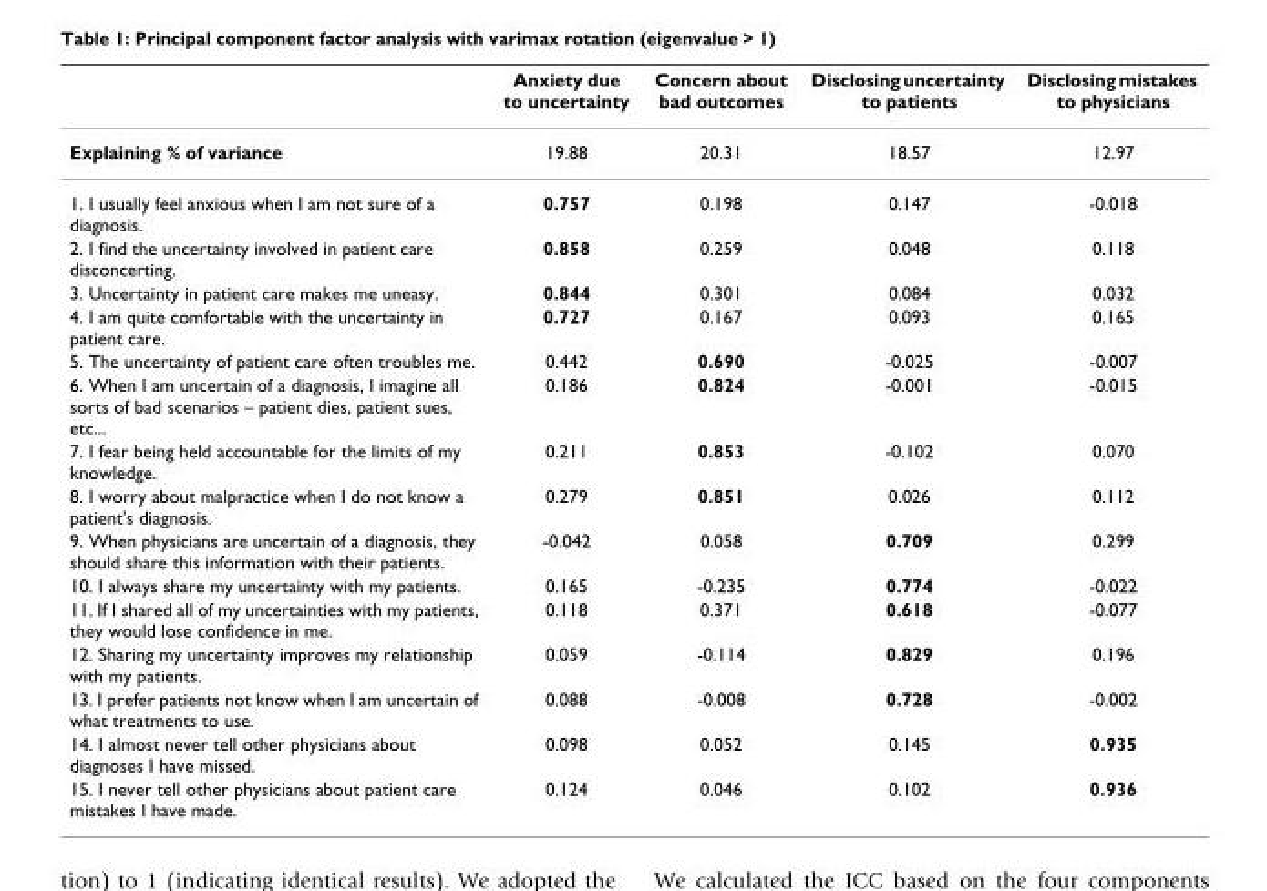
<table><thead><tr><td></td><td>Anxiety due to uncertainty</td><td>Concern about bad outcomes</td><td>Disclosing uncertainty to patients</td><td>Disclosing mistakes to physicians</td></tr></thead><tbody><tr><td>Explaining % of variance</td><td>19.88</td><td>20.31</td><td>18.57</td><td>12.97</td></tr><tr><td>1. I usually feel anxious when I am not sure of a diagnosis.</td><td>0.757</td><td>0.198</td><td>0.147</td><td>-0.018</td></tr><tr><td>2. I find the uncertainty involved in patient care disconcerting.</td><td>0.858</td><td>0.259</td><td>0.048</td><td>0.118</td></tr><tr><td>3. Uncertainty in patient care makes me uneasy.</td><td>0.844</td><td>0.301</td><td>0.084</td><td>0.032</td></tr><tr><td>4. I am quite comfortable with the uncertainty in patient care.</td><td>0.727</td><td>0.167</td><td>0.093</td><td>0.165</td></tr><tr><td>5. The uncertainty of patient care often troubles me.</td><td>0.442</td><td>0.690</td><td>-0.025</td><td>-0.007</td></tr><tr><td>6. When I am uncertain of a diagnosis, I imagine all sorts of bad scenarios – patient dies, patient sues, etc...</td><td>0.186</td><td>0.824</td><td>-0.001</td><td>-0.015</td></tr><tr><td>7. I fear being held accountable for the limits of my knowledge.</td><td>0.211</td><td>0.853</td><td>-0.102</td><td>0.070</td></tr><tr><td>8. I worry about malpractice when I do not know a patient&#x27;s diagnosis.</td><td>0.279</td><td>0.851</td><td>0.026</td><td>0.112</td></tr><tr><td>9. When physicians are uncertain of a diagnosis, they should share this information with their patients.</td><td>-0.042</td><td>0.058</td><td>0.709</td><td>0.299</td></tr><tr><td>10. I always share my uncertainty with my patients.</td><td>0.165</td><td>-0.235</td><td>0.774</td><td>-0.022</td></tr><tr><td>11. If I shared all of my uncertainties with my patients, they would lose confidence in me.</td><td>0.118</td><td>0.371</td><td>0.618</td><td>-0.077</td></tr><tr><td>12. Sharing my uncertainty improves my relationship with my patients.</td><td>0.059</td><td>-0.114</td><td>0.829</td><td>0.196</td></tr><tr><td>13. I prefer patients not know when I am uncertain of what treatments to use.</td><td>0.088</td><td>-0.008</td><td>0.728</td><td>-0.002</td></tr><tr><td>14. I almost never tell other physicians about diagnoses I have missed.</td><td>0.098</td><td>0.052</td><td>0.145</td><td>0.935</td></tr><tr><td>15. I never tell other physicians about patient care mistakes I have made.</td><td>0.124</td><td>0.046</td><td>0.102</td><td>0.936</td></tr></tbody></table>